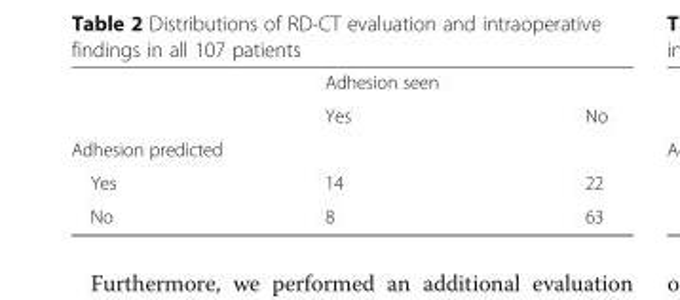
<table><thead><tr><td rowspan="2"></td><td colspan="2">Adhesion seen</td></tr><tr><td>Yes</td><td>No</td></tr></thead><tbody><tr><td colspan="3">Adhesion predicted</td></tr><tr><td>Yes</td><td>14</td><td>22</td></tr><tr><td>No</td><td>8</td><td>63</td></tr></tbody></table>